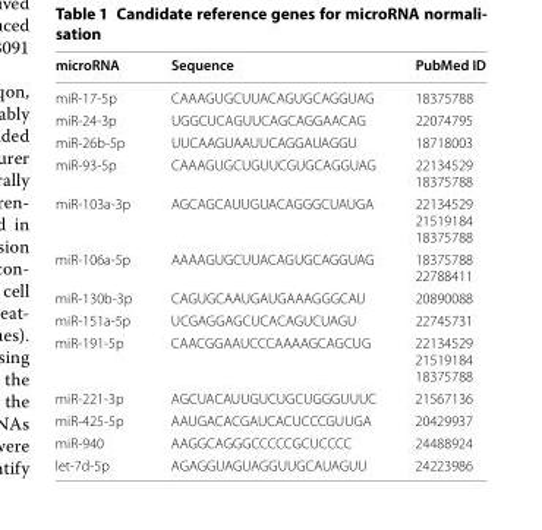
<table><thead><tr><td>microRNA</td><td>Sequence</td><td>PubMed ID</td></tr></thead><tbody><tr><td>miR-17-5p</td><td>CAAAGUGCUUACAGUGCAGGUAG</td><td>18375788</td></tr><tr><td>miR-24-3p</td><td>UGGCUCAGUUCAGCAGGAACAG</td><td>22074795</td></tr><tr><td>miR-26b-5p</td><td>UUCAAGUAAUUCAGGAUAGGU</td><td>18718003</td></tr><tr><td>miR-93-5p</td><td>CAAAGUGCUGUUCGUGCAGGUAG</td><td>22134529 18375788</td></tr><tr><td>miR-103a-3p</td><td>AGCAGCAUUGUACAGGGCUAUGA</td><td>22134529 21519184 18375788</td></tr><tr><td>miR-106a-5p</td><td>AAAAGUGCUUACAGUGCAGGUAG</td><td>18375788 22788411</td></tr><tr><td>miR-130b-3p</td><td>CAGUGCAAUGAUGAAAGGGCAU</td><td>20890088</td></tr><tr><td>miR-151a-5p</td><td>UCGAGGAGCUCACAGUCUAGU</td><td>22745731</td></tr><tr><td>miR-191-5p</td><td>CAACGGAAUCCCAAAAGCAGCUG</td><td>22134529 21519184 18375788</td></tr><tr><td>miR-221-3p</td><td>AGCUACAUUGUCUGCUGGGUUUC</td><td>21567136</td></tr><tr><td>miR-425-5p</td><td>AAUGACACGAUCACUCCCGUUGA</td><td>20429937</td></tr><tr><td>miR-940</td><td>AAGGCAGGGCCCCCGCUCCCC</td><td>24488924</td></tr><tr><td>let-7d-5p</td><td>AGAGGUAGUAGGUUGCAUAGUU</td><td>24223986</td></tr></tbody></table>